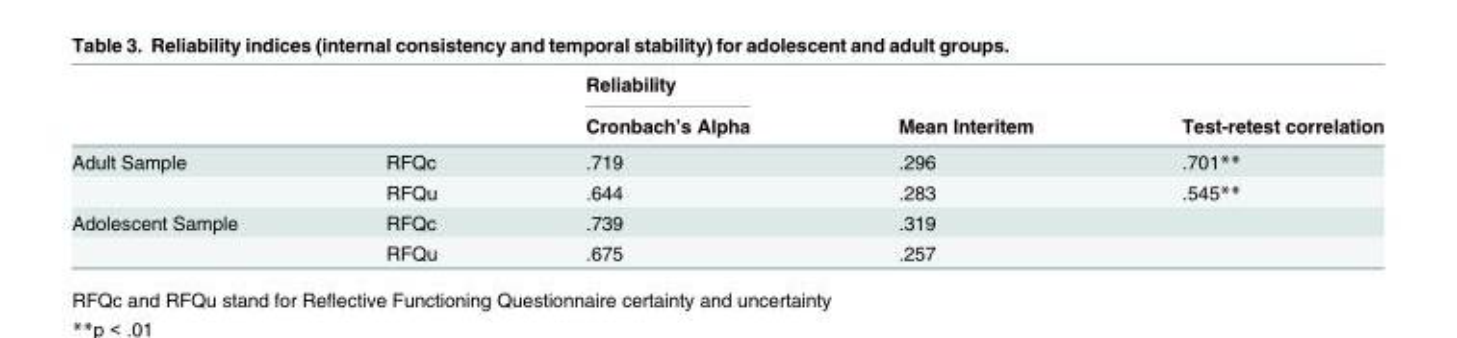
<table><thead><tr><td rowspan="2"></td><td rowspan="2"></td><td rowspan="2">Reliability Cronbach’s Alpha</td><td rowspan="2">Mean Interitem</td><td rowspan="2">Test-retest correlation</td></tr><tr></tr></thead><tbody><tr><td rowspan="2">Adult Sample</td><td>RFQc</td><td>.719</td><td>.296</td><td>.701**</td></tr><tr><td>RFQu</td><td>.644</td><td>.283</td><td>.545**</td></tr><tr><td rowspan="2">Adolescent Sample</td><td>RFQc</td><td>.739</td><td>.319</td><td></td></tr><tr><td>RFQu</td><td>.675</td><td>.257</td><td></td></tr></tbody></table>